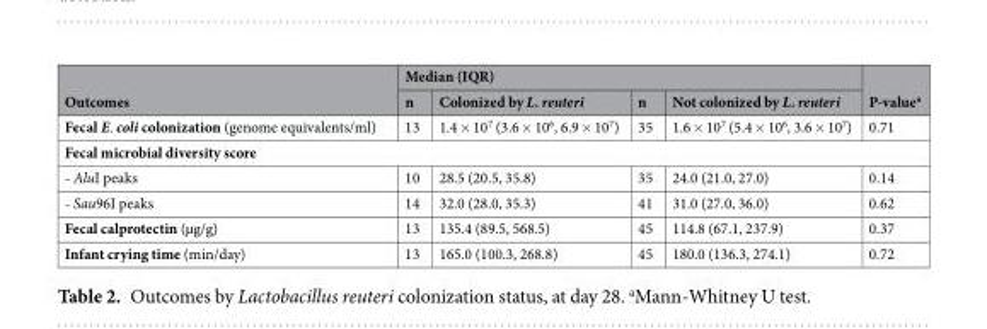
<table><thead><tr><td rowspan="2">Outcomes</td><td colspan="4">Median (IQR)</td><td rowspan="2">P-value<sup>a</sup></td></tr><tr><td>n</td><td>Colonized by L. reuteri</td><td>n</td><td>Not colonized by L. reuteri</td></tr></thead><tbody><tr><td>Fecal E. coli colonization (genome equivalents/ml)</td><td>13</td><td>1.4 × 10<sup>7</sup> (3.6 × 10<sup>6</sup>, 6.9 × 10<sup>7</sup>)</td><td>35</td><td>1.6 × 10<sup>7</sup> (5.4 × 10<sup>6</sup>, 3.6 × 10<sup>7</sup>)</td><td>0.71</td></tr><tr><td colspan="6">Fecal microbial diversity score</td></tr><tr><td>- AluI peaks</td><td>10</td><td>28.5 (20.5, 35.8)</td><td>35</td><td>24.0 (21.0, 27.0)</td><td>0.14</td></tr><tr><td>- Sau96I peaks</td><td>14</td><td>32.0 (28.0, 35.3)</td><td>41</td><td>31.0 (27.0, 36.0)</td><td>0.62</td></tr><tr><td>Fecal calprotectin (µg/g)</td><td>13</td><td>135.4 (89.5, 568.5)</td><td>45</td><td>114.8 (67.1, 237.9)</td><td>0.37</td></tr><tr><td>Infant crying time (min/day)</td><td>13</td><td>165.0 (100.3, 268.8)</td><td>45</td><td>180.0 (136.3, 274.1)</td><td>0.72</td></tr></tbody></table>